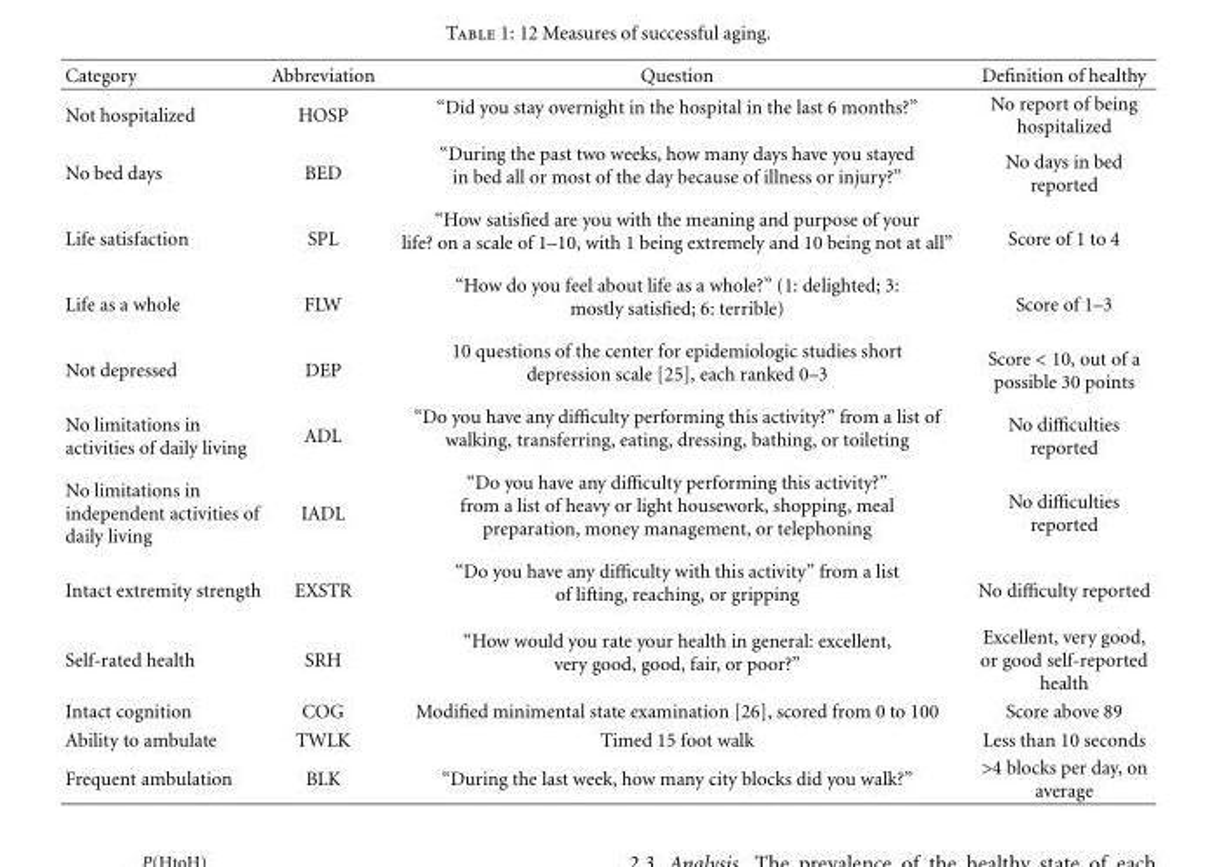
<table><thead><tr><td>Category</td><td>Abbreviation</td><td>Question</td><td>Definition of healthy</td></tr></thead><tbody><tr><td>Not hospitalized</td><td>HOSP</td><td>“Did you stay overnight in the hospital in the last 6 months?”</td><td>No report of being hospitalized</td></tr><tr><td>No bed days</td><td>BED</td><td>“During the past two weeks, how many days have you stayed in bed all or most of the day because of illness or injury?”</td><td>No days in bed reported</td></tr><tr><td>Life satisfaction</td><td>SPL</td><td>“How satisfied are you with the meaning and purpose of your life? on a scale of 1–10, with 1 being extremely and 10 being not at all”</td><td>Score of 1 to 4</td></tr><tr><td>Life as a whole</td><td>FLW</td><td>“How do you feel about life as a whole?” (1: delighted; 3: mostly satisfied; 6: terrible)</td><td>Score of 1–3</td></tr><tr><td>Not depressed</td><td>DEP</td><td>10 questions of the center for epidemiologic studies short depression scale [25], each ranked 0–3</td><td>Score &lt; 10, out of a possible 30 points</td></tr><tr><td>No limitations in activities of daily living</td><td>ADL</td><td>“Do you have any difficulty performing this activity?” from a list of walking, transferring, eating, dressing, bathing, or toileting</td><td>No difficulties reported</td></tr><tr><td>No limitations in independent activities of daily living</td><td>IADL</td><td>“Do you have any difficulty performing this activity?” from a list of heavy or light housework, shopping, meal preparation, money management, or telephoning</td><td>No difficulties reported</td></tr><tr><td>Intact extremity strength</td><td>EXSTR</td><td>“Do you have any difficulty with this activity” from a list of lifting, reaching, or gripping</td><td>No difficulty reported</td></tr><tr><td>Self-rated health</td><td>SRH</td><td>“How would you rate your health in general: excellent, very good, good, fair, or poor?”</td><td>Excellent, very good, or good self-reported health</td></tr><tr><td>Intact cognition</td><td>COG</td><td>Modified minimental state examination [26], scored from 0 to 100</td><td>Score above 89</td></tr><tr><td>Ability to ambulate</td><td>TWLK</td><td>Timed 15 foot walk</td><td>Less than 10 seconds</td></tr><tr><td>Frequent ambulation</td><td>BLK</td><td>“During the last week, how many city blocks did you walk?”</td><td>&gt;4 blocks per day, on average</td></tr></tbody></table>